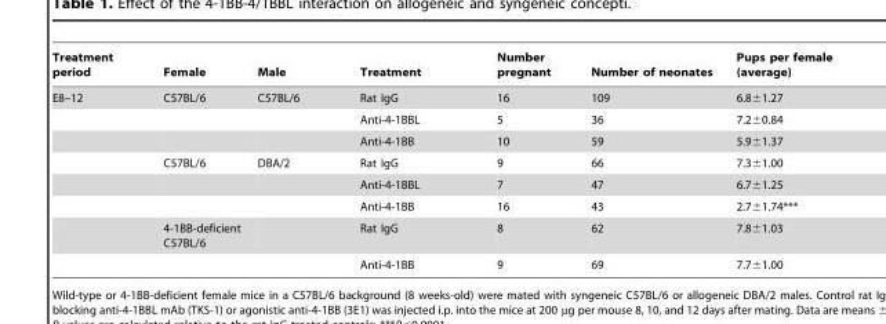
<table><thead><tr><td>Treatment period</td><td>Female</td><td>Male</td><td>Treatment</td><td>Number pregnant</td><td>Number of neonates</td><td>Pups per female (average)</td></tr></thead><tbody><tr><td rowspan="8">E8–12</td><td>C57BL/6</td><td>C57BL/6</td><td>Rat IgG</td><td>16</td><td>109</td><td>6.8±1.27</td></tr><tr><td></td><td></td><td>Anti-4-1BBL</td><td>5</td><td>36</td><td>7.2±0.84</td></tr><tr><td></td><td></td><td>Anti-4-1BB</td><td>10</td><td>59</td><td>5.9±1.37</td></tr><tr><td>C57BL/6</td><td>DBA/2</td><td>Rat IgG</td><td>9</td><td>66</td><td>7.3±1.00</td></tr><tr><td></td><td></td><td>Anti-4-1BBL</td><td>7</td><td>47</td><td>6.7±1.25</td></tr><tr><td></td><td></td><td>Anti-4-1BB</td><td>16</td><td>43</td><td>2.7±1.74***</td></tr><tr><td>4-1BB-deficient C57BL/6</td><td></td><td>Rat IgG</td><td>8</td><td>62</td><td>7.8±1.03</td></tr><tr><td></td><td></td><td>Anti-4-1BB</td><td>9</td><td>69</td><td>7.7±1.00</td></tr></tbody></table>